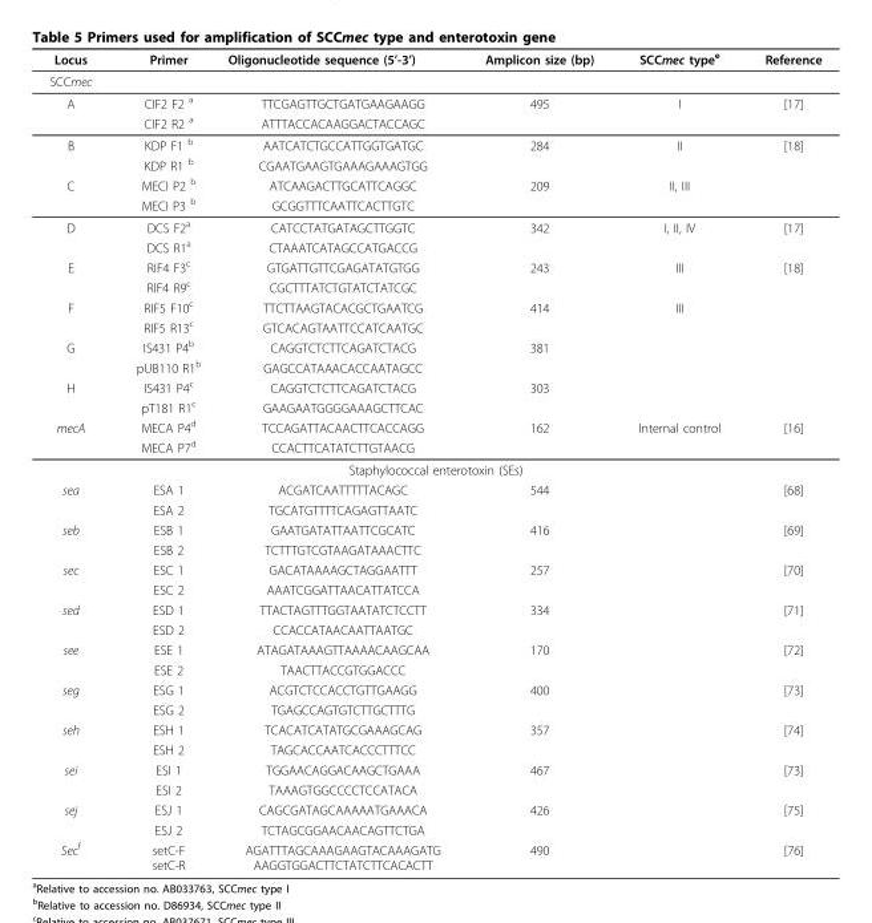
<table><thead><tr><td>Locus</td><td>Primer</td><td>Oligonucleotide sequence (5’-3’)</td><td>Amplicon size (bp)</td><td>SCCmec type<sup>e</sup></td><td>Reference</td></tr></thead><tbody><tr><td colspan="6">SCCmec</td></tr><tr><td rowspan="2">A</td><td>CIF2 F2 <sup>a</sup></td><td>TTCGAGTTGCTGATGAAGAAGG</td><td>495</td><td>I</td><td>[17]</td></tr><tr><td>CIF2 R2 <sup>a</sup></td><td>ATTTACCACAAGGACTACCAGC</td><td></td><td></td><td></td></tr><tr><td rowspan="2">B</td><td>KDP F1 <sup>b</sup></td><td>AATCATCTGCCATTGGTGATGC</td><td>284</td><td>II</td><td>[18]</td></tr><tr><td>KDP R1 <sup>b</sup></td><td>CGAATGAAGTGAAAGAAAGTGG</td><td></td><td></td><td></td></tr><tr><td rowspan="2">C</td><td>MECI P2 <sup>b</sup></td><td>ATCAAGACTTGCATTCAGGC</td><td>209</td><td>II, III</td><td></td></tr><tr><td>MECI P3 <sup>b</sup></td><td>GCGGTTTCAATTCACTTGTC</td><td></td><td></td><td></td></tr><tr><td rowspan="2">D</td><td>DCS F2<sup>a</sup></td><td>CATCCTATGATAGCTTGGTC</td><td>342</td><td>I, II, IV</td><td>[17]</td></tr><tr><td>DCS R1<sup>a</sup></td><td>CTAAATCATAGCCATGACCG</td><td></td><td></td><td></td></tr><tr><td rowspan="2">E</td><td>RIF4 F3<sup>c</sup></td><td>GTGATTGTTCGAGATATGTGG</td><td>243</td><td>III</td><td>[18]</td></tr><tr><td>RIF4 R9<sup>c</sup></td><td>CGCTTTATCTGTATCTATCGC</td><td></td><td></td><td></td></tr><tr><td rowspan="2">F</td><td>RIF5 F10<sup>c</sup></td><td>TTCTTAAGTACACGCTGAATCG</td><td>414</td><td>III</td><td></td></tr><tr><td>RIF5 R13<sup>c</sup></td><td>GTCACAGTAATTCCATCAATGC</td><td></td><td></td><td></td></tr><tr><td rowspan="2">G</td><td>IS431 P4<sup>b</sup></td><td>CAGGTCTCTTCAGATCTACG</td><td>381</td><td></td><td></td></tr><tr><td>pUB110 R1<sup>b</sup></td><td>GAGCCATAAACACCAATAGCC</td><td></td><td></td><td></td></tr><tr><td rowspan="2">H</td><td>IS431 P4<sup>c</sup></td><td>CAGGTCTCTTCAGATCTACG</td><td>303</td><td></td><td></td></tr><tr><td>pT181 R1<sup>c</sup></td><td>GAAGAATGGGGAAAGCTTCAC</td><td></td><td></td><td></td></tr><tr><td rowspan="2">mecA</td><td>MECA P4<sup>d</sup></td><td>TCCAGATTACAACTTCACCAGG</td><td>162</td><td>Internal control</td><td>[16]</td></tr><tr><td>MECA P7<sup>d</sup></td><td>CCACTTCATATCTTGTAACG</td><td></td><td></td><td></td></tr><tr><td colspan="6">Staphylococcal enterotoxin (SEs)</td></tr><tr><td rowspan="2">sea</td><td>ESA 1</td><td>ACGATCAATTTTTACAGC</td><td>544</td><td></td><td>[68]</td></tr><tr><td>ESA 2</td><td>TGCATGTTTTCAGAGTTAATC</td><td></td><td></td><td></td></tr><tr><td rowspan="2">seb</td><td>ESB 1</td><td>GAATGATATTAATTCGCATC</td><td>416</td><td></td><td>[69]</td></tr><tr><td>ESB 2</td><td>TCTTTGTCGTAAGATAAACTTC</td><td></td><td></td><td></td></tr><tr><td rowspan="2">sec</td><td>ESC 1</td><td>GACATAAAAGCTAGGAATTT</td><td>257</td><td></td><td>[70]</td></tr><tr><td>ESC 2</td><td>AAATCGGATTAACATTATCCA</td><td></td><td></td><td></td></tr><tr><td rowspan="2">sed</td><td>ESD 1</td><td>TTACTAGTTTGGTAATATCTCCTT</td><td>334</td><td></td><td>[71]</td></tr><tr><td>ESD 2</td><td>CCACCATAACAATTAATGC</td><td></td><td></td><td></td></tr><tr><td rowspan="2">see</td><td>ESE 1</td><td>ATAGATAAAGTTAAAACAAGCAA</td><td>170</td><td></td><td>[72]</td></tr><tr><td>ESE 2</td><td>TAACTTACCGTGGACCC</td><td></td><td></td><td></td></tr><tr><td rowspan="2">seg</td><td>ESG 1</td><td>ACGTCTCCACCTGTTGAAGG</td><td>400</td><td></td><td>[73]</td></tr><tr><td>ESG 2</td><td>TGAGCCAGTGTCTTGCTTTG</td><td></td><td></td><td></td></tr><tr><td rowspan="2">seh</td><td>ESH 1</td><td>TCACATCATATGCGAAAGCAG</td><td>357</td><td></td><td>[74]</td></tr><tr><td>ESH 2</td><td>TAGCACCAATCACCCTTTCC</td><td></td><td></td><td></td></tr><tr><td rowspan="2">sei</td><td>ESI 1</td><td>TGGAACAGGACAAGCTGAAA</td><td>467</td><td></td><td>[73]</td></tr><tr><td>ESI 2</td><td>TAAAGTGGCCCCTCCATACA</td><td></td><td></td><td></td></tr><tr><td rowspan="2">sej</td><td>ESJ 1</td><td>CAGCGATAGCAAAAATGAAACA</td><td>426</td><td></td><td>[75]</td></tr><tr><td>ESJ 2</td><td>TCTAGCGGAACAACAGTTCTGA</td><td></td><td></td><td></td></tr><tr><td>Sec<sup>f</sup></td><td>setC-F setC-R</td><td>AGATTTAGCAAAGAAGTACAAAGATG AAGGTGGACTTCTATCTTCACACTT</td><td>490</td><td></td><td>[76]</td></tr></tbody></table>